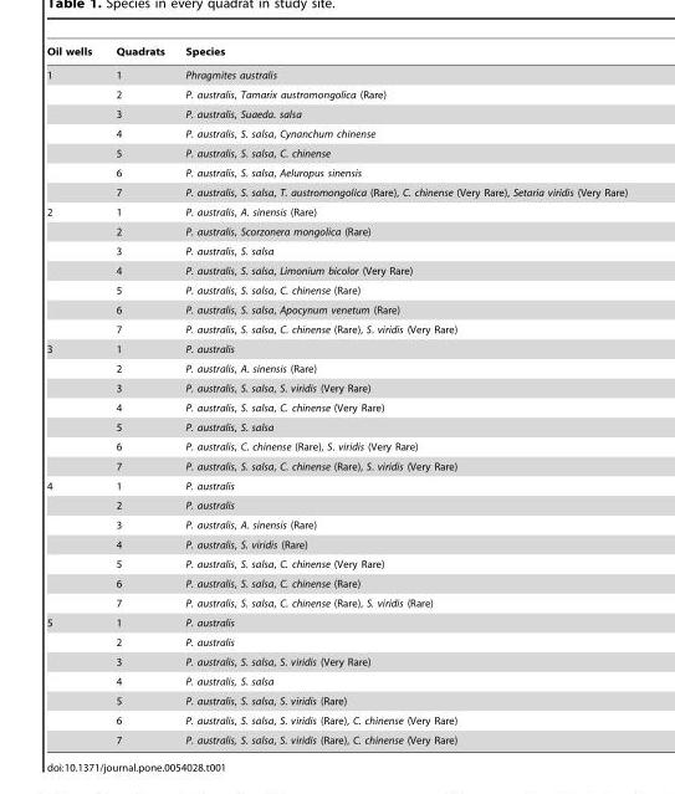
<table><thead><tr><td>Oil wells</td><td>Quadrats</td><td>Species</td></tr></thead><tbody><tr><td rowspan="7">1</td><td>1</td><td>Phragmites australis</td></tr><tr><td>2</td><td>P. australis, Tamarix austromongolica (Rare)</td></tr><tr><td>3</td><td>P. australis, Suaeda. salsa</td></tr><tr><td>4</td><td>P. australis, S. salsa, Cynanchum chinense</td></tr><tr><td>5</td><td>P. australis, S. salsa, C. chinense</td></tr><tr><td>6</td><td>P. australis, S. salsa, Aeluropus sinensis</td></tr><tr><td>7</td><td>P. australis, S. salsa, T. austromongolica (Rare), C. chinense (Very Rare), Setaria viridis (Very Rare)</td></tr><tr><td rowspan="7">2</td><td>1</td><td>P. australis, A. sinensis (Rare)</td></tr><tr><td>2</td><td>P. australis, Scorzonera mongolica (Rare)</td></tr><tr><td>3</td><td>P. australis, S. salsa</td></tr><tr><td>4</td><td>P. australis, S. salsa, Limonium bicolor (Very Rare)</td></tr><tr><td>5</td><td>P. australis, S. salsa, C. chinense (Rare)</td></tr><tr><td>6</td><td>P. australis, S. salsa, Apocynum venetum (Rare)</td></tr><tr><td>7</td><td>P. australis, S. salsa, C. chinense (Rare), S. viridis (Very Rare)</td></tr><tr><td rowspan="7">3</td><td>1</td><td>P. australis</td></tr><tr><td>2</td><td>P. australis, A. sinensis (Rare)</td></tr><tr><td>3</td><td>P. australis, S. salsa, S. viridis (Very Rare)</td></tr><tr><td>4</td><td>P. australis, S. salsa, C. chinense (Very Rare)</td></tr><tr><td>5</td><td>P. australis, S. salsa</td></tr><tr><td>6</td><td>P. australis, C. chinense (Rare), S. viridis (Very Rare)</td></tr><tr><td>7</td><td>P. australis, S. salsa, C. chinense (Rare), S. viridis (Very Rare)</td></tr><tr><td rowspan="7">4</td><td>1</td><td>P. australis</td></tr><tr><td>2</td><td>P. australis</td></tr><tr><td>3</td><td>P. australis, A. sinensis (Rare)</td></tr><tr><td>4</td><td>P. australis, S. viridis (Rare)</td></tr><tr><td>5</td><td>P. australis, S. salsa, C. chinense (Very Rare)</td></tr><tr><td>6</td><td>P. australis, S. salsa, C. chinense (Rare)</td></tr><tr><td>7</td><td>P. australis, S. salsa, C. chinense (Rare), S. viridis (Rare)</td></tr><tr><td rowspan="7">5</td><td>1</td><td>P. australis</td></tr><tr><td>2</td><td>P. australis</td></tr><tr><td>3</td><td>P. australis, S. salsa, S. viridis (Very Rare)</td></tr><tr><td>4</td><td>P. australis, S. salsa</td></tr><tr><td>5</td><td>P. australis, S. salsa, S. viridis (Rare)</td></tr><tr><td>6</td><td>P. australis, S. salsa, S. viridis (Rare), C. chinense (Very Rare)</td></tr><tr><td>7</td><td>P. australis, S. salsa, S. viridis (Rare), C. chinense (Very Rare)</td></tr></tbody></table>